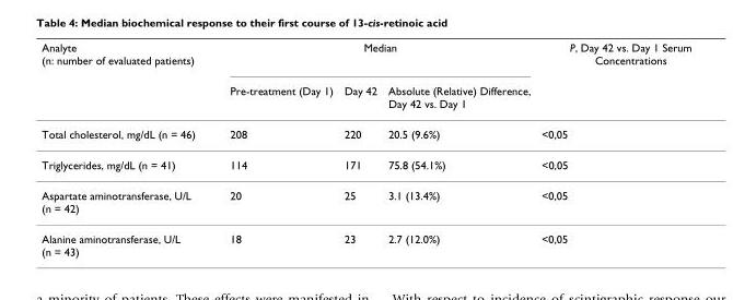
<table><thead><tr><td rowspan="2">Analyte (n: number of evaluated patients)</td><td colspan="3">Median</td><td rowspan="2">P, Day 42 vs. Day 1 Serum Concentrations</td></tr><tr><td>Pre-treatment (Day 1)</td><td>Day 42</td><td>Absolute (Relative) Difference, Day 42 vs. Day 1</td></tr></thead><tbody><tr><td>Total cholesterol, mg/dL (n = 46)</td><td>208</td><td>220</td><td>20.5 (9.6%)</td><td>&lt;0,05</td></tr><tr><td>Triglycerides, mg/dL (n = 41)</td><td>114</td><td>171</td><td>75.8 (54.1%)</td><td>&lt;0,05</td></tr><tr><td>Aspartate aminotransferase, U/L (n = 42)</td><td>20</td><td>25</td><td>3.1 (13.4%)</td><td>&lt;0,05</td></tr><tr><td>Alanine aminotransferase, U/L (n = 43)</td><td>18</td><td>23</td><td>2.7 (12.0%)</td><td>&lt;0,05</td></tr></tbody></table>